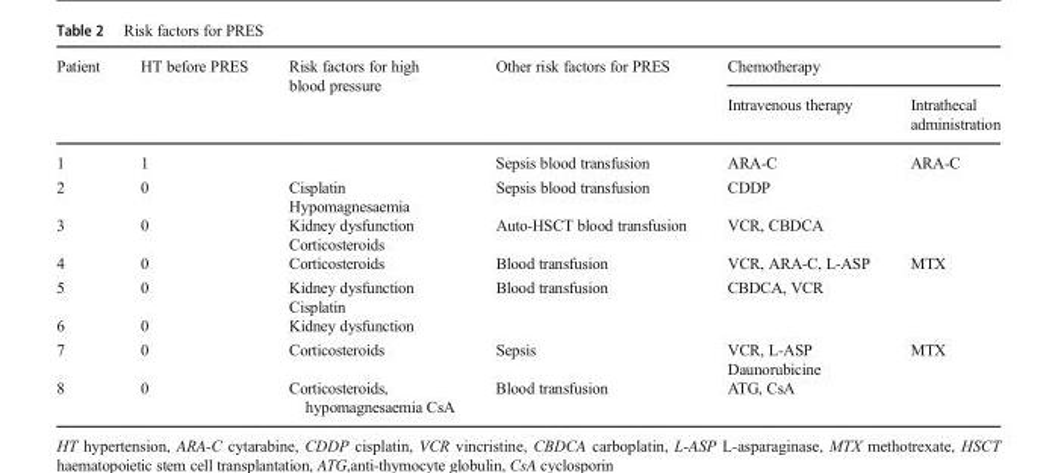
<table><thead><tr><td rowspan="2">Patient</td><td rowspan="2">HT before PRES</td><td rowspan="2">Risk factors for high blood pressure</td><td rowspan="2">Other risk factors for PRES</td><td colspan="2">Chemotherapy</td></tr><tr><td>Intravenous therapy</td><td>Intrathecal administration</td></tr></thead><tbody><tr><td>1</td><td>1</td><td></td><td>Sepsis blood transfusion</td><td>ARA-C</td><td>ARA-C</td></tr><tr><td>2</td><td>0</td><td>Cisplatin Hypomagnesaemia</td><td>Sepsis blood transfusion</td><td>CDDP</td><td></td></tr><tr><td>3</td><td>0</td><td>Kidney dysfunction Corticosteroids</td><td>Auto-HSCT blood transfusion</td><td>VCR, CBDCA</td><td></td></tr><tr><td>4</td><td>0</td><td>Corticosteroids</td><td>Blood transfusion</td><td>VCR, ARA-C, L-ASP</td><td>MTX</td></tr><tr><td>5</td><td>0</td><td>Kidney dysfunction Cisplatin</td><td>Blood transfusion</td><td>CBDCA, VCR</td><td></td></tr><tr><td>6</td><td>0</td><td>Kidney dysfunction</td><td></td><td></td><td></td></tr><tr><td>7</td><td>0</td><td>Corticosteroids</td><td>Sepsis</td><td>VCR, L-ASP Daunorubicine</td><td>MTX</td></tr><tr><td>8</td><td>0</td><td>Corticosteroids, hypomagnesaemia CsA</td><td>Blood transfusion</td><td>ATG, CsA</td><td></td></tr></tbody></table>